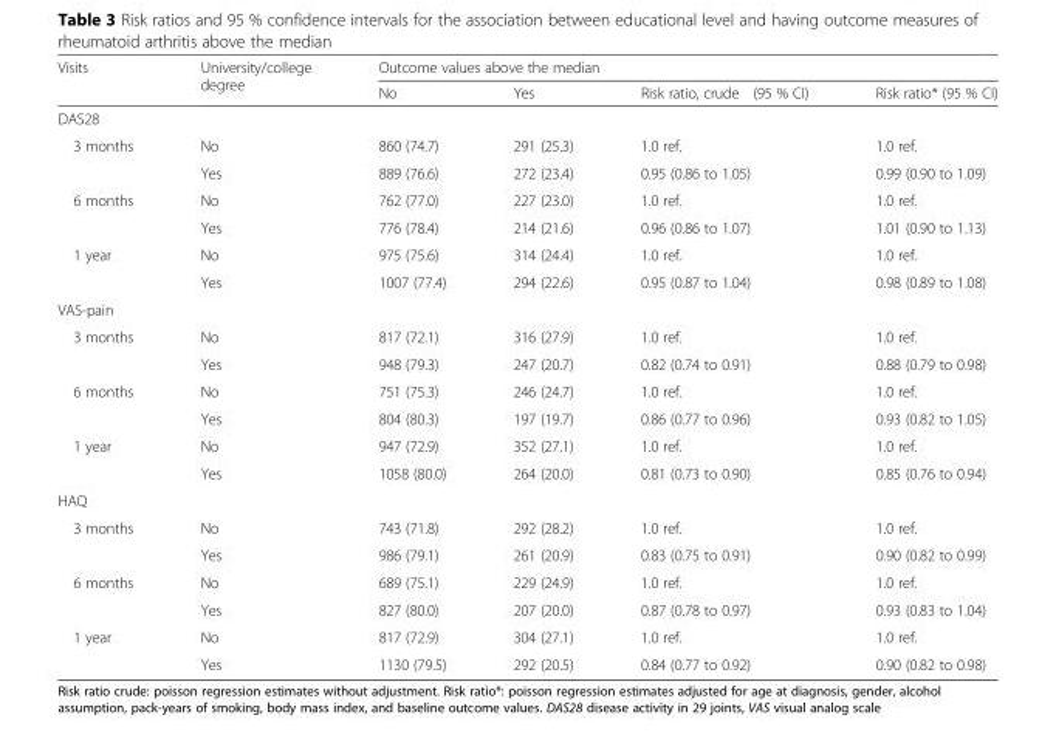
<table><thead><tr><td rowspan="2">Visits</td><td rowspan="2">University/college degree</td><td colspan="4">Outcome values above the median</td></tr><tr><td>No</td><td>Yes</td><td>Risk ratio, crude (95 % CI)</td><td>Risk ratio* (95 % CI)</td></tr></thead><tbody><tr><td colspan="6">DAS28</td></tr><tr><td rowspan="2">3 months</td><td>No</td><td>860 (74.7)</td><td>291 (25.3)</td><td>1.0 ref.</td><td>1.0 ref.</td></tr><tr><td>Yes</td><td>889 (76.6)</td><td>272 (23.4)</td><td>0.95 (0.86 to 1.05)</td><td>0.99 (0.90 to 1.09)</td></tr><tr><td rowspan="2">6 months</td><td>No</td><td>762 (77.0)</td><td>227 (23.0)</td><td>1.0 ref.</td><td>1.0 ref.</td></tr><tr><td>Yes</td><td>776 (78.4)</td><td>214 (21.6)</td><td>0.96 (0.86 to 1.07)</td><td>1.01 (0.90 to 1.13)</td></tr><tr><td rowspan="2">1 year</td><td>No</td><td>975 (75.6)</td><td>314 (24.4)</td><td>1.0 ref.</td><td>1.0 ref.</td></tr><tr><td>Yes</td><td>1007 (77.4)</td><td>294 (22.6)</td><td>0.95 (0.87 to 1.04)</td><td>0.98 (0.89 to 1.08)</td></tr><tr><td colspan="6">VAS-pain</td></tr><tr><td rowspan="2">3 months</td><td>No</td><td>817 (72.1)</td><td>316 (27.9)</td><td>1.0 ref.</td><td>1.0 ref.</td></tr><tr><td>Yes</td><td>948 (79.3)</td><td>247 (20.7)</td><td>0.82 (0.74 to 0.91)</td><td>0.88 (0.79 to 0.98)</td></tr><tr><td rowspan="2">6 months</td><td>No</td><td>751 (75.3)</td><td>246 (24.7)</td><td>1.0 ref.</td><td>1.0 ref.</td></tr><tr><td>Yes</td><td>804 (80.3)</td><td>197 (19.7)</td><td>0.86 (0.77 to 0.96)</td><td>0.93 (0.82 to 1.05)</td></tr><tr><td rowspan="2">1 year</td><td>No</td><td>947 (72.9)</td><td>352 (27.1)</td><td>1.0 ref.</td><td>1.0 ref.</td></tr><tr><td>Yes</td><td>1058 (80.0)</td><td>264 (20.0)</td><td>0.81 (0.73 to 0.90)</td><td>0.85 (0.76 to 0.94)</td></tr><tr><td colspan="6">HAQ</td></tr><tr><td rowspan="2">3 months</td><td>No</td><td>743 (71.8)</td><td>292 (28.2)</td><td>1.0 ref.</td><td>1.0 ref.</td></tr><tr><td>Yes</td><td>986 (79.1)</td><td>261 (20.9)</td><td>0.83 (0.75 to 0.91)</td><td>0.90 (0.82 to 0.99)</td></tr><tr><td rowspan="2">6 months</td><td>No</td><td>689 (75.1)</td><td>229 (24.9)</td><td>1.0 ref.</td><td>1.0 ref.</td></tr><tr><td>Yes</td><td>827 (80.0)</td><td>207 (20.0)</td><td>0.87 (0.78 to 0.97)</td><td>0.93 (0.83 to 1.04)</td></tr><tr><td rowspan="2">1 year</td><td>No</td><td>817 (72.9)</td><td>304 (27.1)</td><td>1.0 ref.</td><td>1.0 ref.</td></tr><tr><td>Yes</td><td>1130 (79.5)</td><td>292 (20.5)</td><td>0.84 (0.77 to 0.92)</td><td>0.90 (0.82 to 0.98)</td></tr></tbody></table>